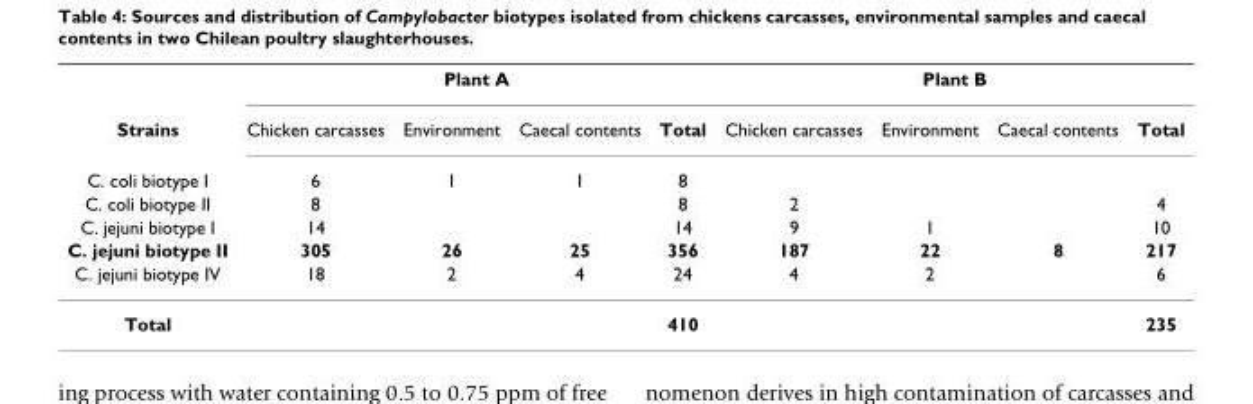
<table><thead><tr><td rowspan="7">Strains C. coli biotype I C. coli biotype II C. jejuni biotype I C. jejuni biotype II C. jejuni biotype IV</td><td colspan="4">Plant A</td><td colspan="4">Plant B</td></tr><tr><td rowspan="6">Chicken carcasses 6 8 14 305 18</td><td rowspan="6">Environment 1 26 2</td><td rowspan="6">Caecal contents 1 25 4</td><td rowspan="6">Total 8 8 14 356 24</td><td rowspan="6">Chicken carcasses 2 9 187 4</td><td rowspan="6">Environment 1 22 2</td><td rowspan="6">Caecal contents 8</td><td rowspan="6">Total 4 10 217 6</td></tr><tr></tr><tr></tr><tr></tr><tr></tr><tr></tr></thead><tbody><tr><td>Total</td><td></td><td></td><td></td><td>410</td><td></td><td></td><td></td><td>235</td></tr></tbody></table>